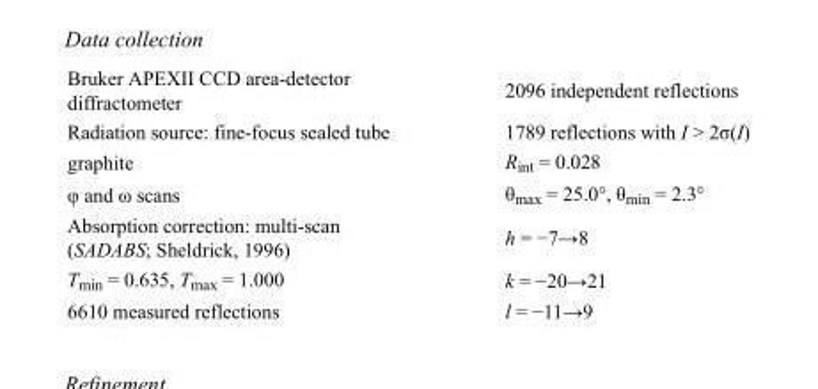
<table><tbody><tr><td>Bruker APEXII CCD area-detector diffractometer</td><td>2096 independent reflections</td></tr><tr><td>Radiation source: fine-focus sealed tube</td><td>1789 reflections with I &gt; 2σ(I)</td></tr><tr><td>graphite</td><td>R<sub>int</sub> = 0.028</td></tr><tr><td>φ and ω scans</td><td>θ<sub>max</sub> = 25.0°, θ<sub>min</sub> = 2.3°</td></tr><tr><td>Absorption correction: multi-scan (SADABS; Sheldrick, 1996)</td><td>h = −7→8</td></tr><tr><td>T<sub>min</sub> = 0.635, T<sub>max</sub> = 1.000</td><td>k = −20→21</td></tr><tr><td>6610 measured reflections</td><td>l = −11→9</td></tr></tbody></table>